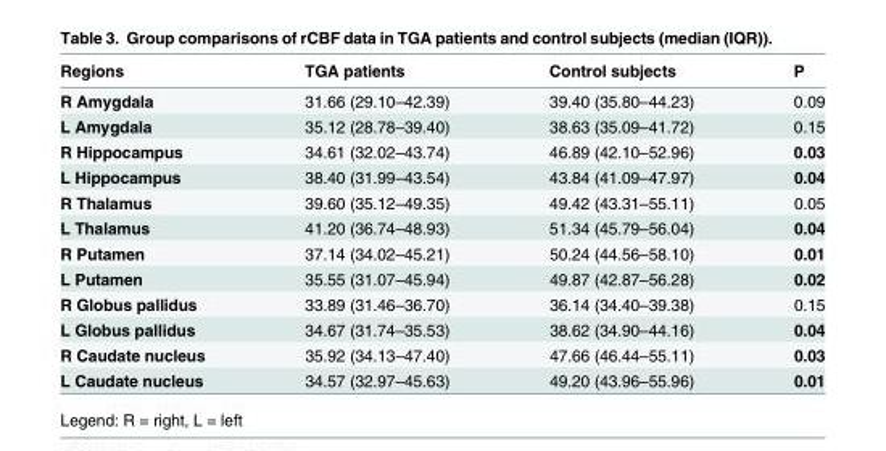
<table><thead><tr><td>Regions</td><td>TGA patients</td><td>Control subjects</td><td>P</td></tr></thead><tbody><tr><td>R Amygdala</td><td>31.66 (29.10–42.39)</td><td>39.40 (35.80–44.23)</td><td>0.09</td></tr><tr><td>L Amygdala</td><td>35.12 (28.78–39.40)</td><td>38.63 (35.09–41.72)</td><td>0.15</td></tr><tr><td>R Hippocampus</td><td>34.61 (32.02–43.74)</td><td>46.89 (42.10–52.96)</td><td>0.03</td></tr><tr><td>L Hippocampus</td><td>38.40 (31.99–43.54)</td><td>43.84 (41.09–47.97)</td><td>0.04</td></tr><tr><td>R Thalamus</td><td>39.60 (35.12–49.35)</td><td>49.42 (43.31–55.11)</td><td>0.05</td></tr><tr><td>L Thalamus</td><td>41.20 (36.74–48.93)</td><td>51.34 (45.79–56.04)</td><td>0.04</td></tr><tr><td>R Putamen</td><td>37.14 (34.02–45.21)</td><td>50.24 (44.56–58.10)</td><td>0.01</td></tr><tr><td>L Putamen</td><td>35.55 (31.07–45.94)</td><td>49.87 (42.87–56.28)</td><td>0.02</td></tr><tr><td>R Globus pallidus</td><td>33.89 (31.46–36.70)</td><td>36.14 (34.40–39.38)</td><td>0.15</td></tr><tr><td>L Globus pallidus</td><td>34.67 (31.74–35.53)</td><td>38.62 (34.90–44.16)</td><td>0.04</td></tr><tr><td>R Caudate nucleus</td><td>35.92 (34.13–47.40)</td><td>47.66 (46.44–55.11)</td><td>0.03</td></tr><tr><td>L Caudate nucleus</td><td>34.57 (32.97–45.63)</td><td>49.20 (43.96–55.96)</td><td>0.01</td></tr></tbody></table>